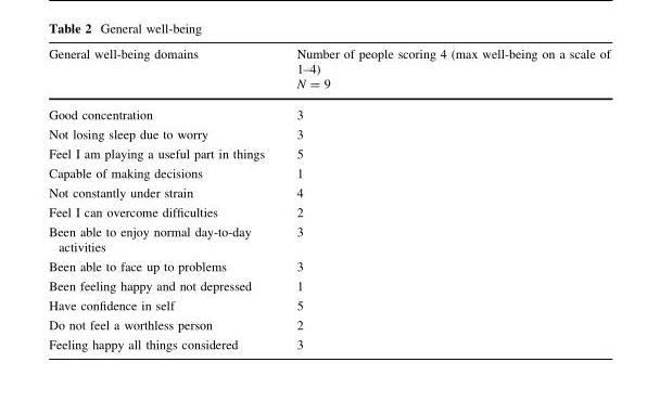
<table><thead><tr><td>General well-being domains</td><td>Number of people scoring 4 (max well-being on a scale of 1–4) N = 9</td></tr></thead><tbody><tr><td>Good concentration</td><td>3</td></tr><tr><td>Not losing sleep due to worry</td><td>3</td></tr><tr><td>Feel I am playing a useful part in things</td><td>5</td></tr><tr><td>Capable of making decisions</td><td>1</td></tr><tr><td>Not constantly under strain</td><td>4</td></tr><tr><td>Feel I can overcome difficulties</td><td>2</td></tr><tr><td>Been able to enjoy normal day-to-day activities</td><td>3</td></tr><tr><td>Been able to face up to problems</td><td>3</td></tr><tr><td>Been feeling happy and not depressed</td><td>1</td></tr><tr><td>Have confidence in self</td><td>5</td></tr><tr><td>Do not feel a worthless person</td><td>2</td></tr><tr><td>Feeling happy all things considered</td><td>3</td></tr></tbody></table>